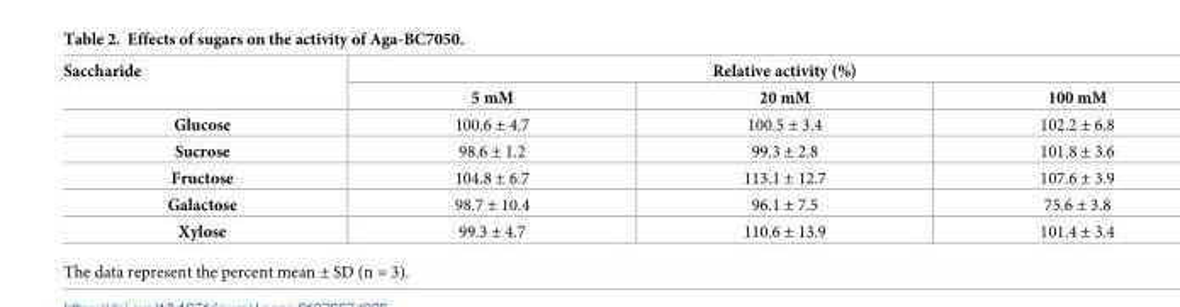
<table><thead><tr><td rowspan="2">Saccharide</td><td colspan="3">Relative activity (%)</td></tr><tr><td>5 mM</td><td>20 mM</td><td>100 mM</td></tr></thead><tbody><tr><td>Glucose</td><td>100.6 ± 4.7</td><td>100.5 ± 3.4</td><td>102.2 ± 6.8</td></tr><tr><td>Sucrose</td><td>98.6 ± 1.2</td><td>99.3 ± 2.8</td><td>101.8 ± 3.6</td></tr><tr><td>Fructose</td><td>104.8 ± 6.7</td><td>113.1 ± 12.7</td><td>107.6 ± 3.9</td></tr><tr><td>Galactose</td><td>98.7 ± 10.4</td><td>96.1 ± 7.5</td><td>75.6 ± 3.8</td></tr><tr><td>Xylose</td><td>99.3 ± 4.7</td><td>110.6 ± 13.9</td><td>101.4 ± 3.4</td></tr></tbody></table>